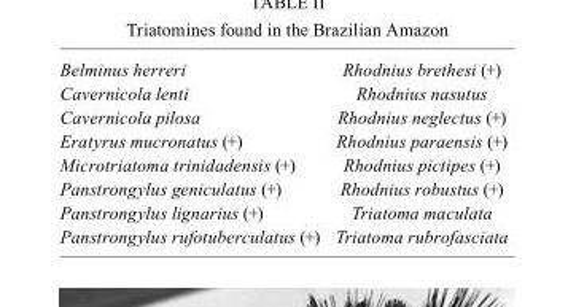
<table><tbody><tr><td>Belminus herreri</td><td>Rhodnius brethesi (+)</td></tr><tr><td>Cavernicola lenti</td><td>Rhodnius nasutus</td></tr><tr><td>Cavernicola pilosa</td><td>Rhodnius neglectus (+)</td></tr><tr><td>Eratyrus mucronatus (+)</td><td>Rhodnius paraensis (+)</td></tr><tr><td>Microtriatoma trinidadensis (+)</td><td>Rhodnius pictipes (+)</td></tr><tr><td>Panstrongylus geniculatus (+)</td><td>Rhodnius robustus (+)</td></tr><tr><td>Panstrongylus lignarius (+)</td><td>Triatoma maculata</td></tr><tr><td>Panstrongylus rufotuberculatus (+)</td><td>Triatoma rubrofasciata</td></tr></tbody></table>